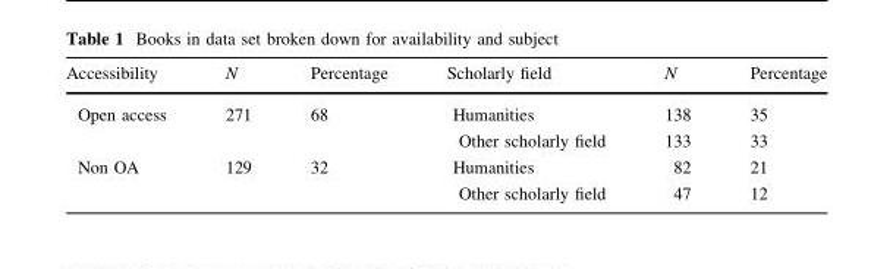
<table><thead><tr><td>Accessibility</td><td>N</td><td>Percentage</td><td>Scholarly field</td><td>N</td><td>Percentage</td></tr></thead><tbody><tr><td rowspan="2">Open access</td><td rowspan="2">271</td><td rowspan="2">68</td><td>Humanities</td><td>138</td><td>35</td></tr><tr><td>Other scholarly field</td><td>133</td><td>33</td></tr><tr><td rowspan="2">Non OA</td><td rowspan="2">129</td><td rowspan="2">32</td><td>Humanities</td><td>82</td><td>21</td></tr><tr><td>Other scholarly field</td><td>47</td><td>12</td></tr></tbody></table>